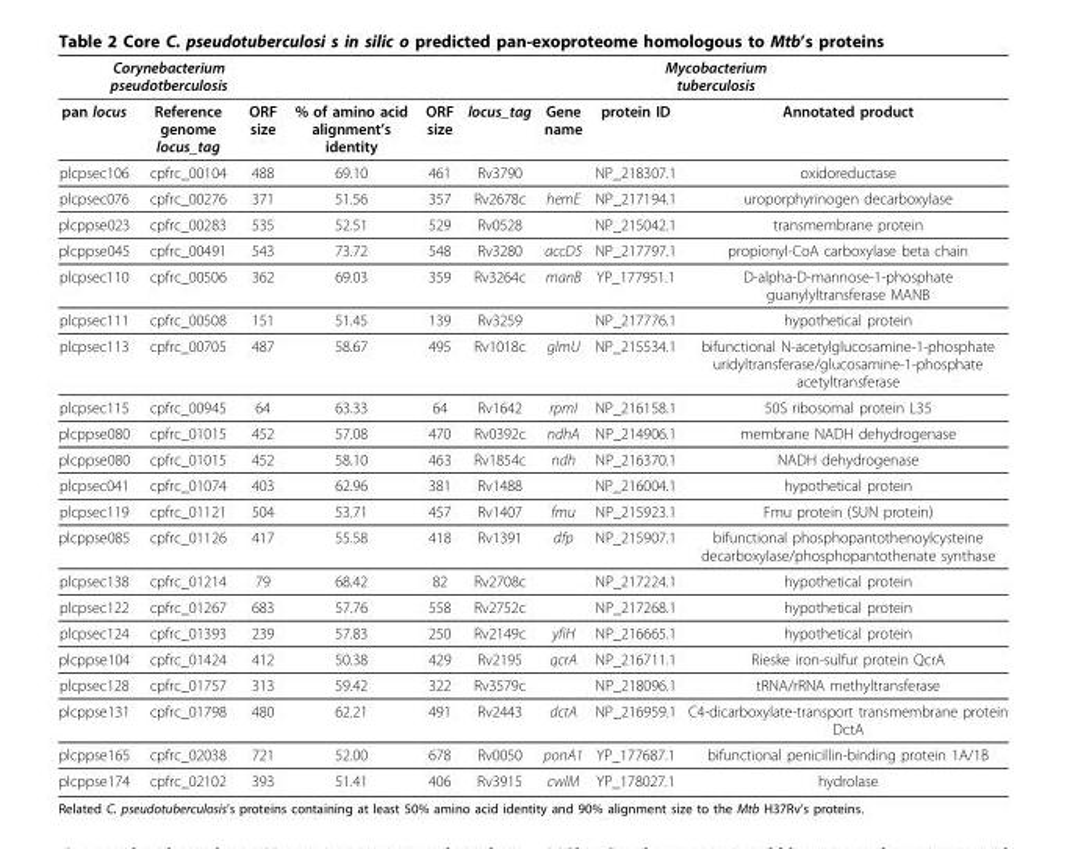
<table><thead><tr><td colspan="3">Corynebacterium pseudotberculosis</td><td rowspan="2">% of amino acid alignment’s identity</td><td colspan="5">Mycobacterium tuberculosis</td></tr><tr><td>pan locus</td><td>Reference genome locus_tag</td><td>ORF size</td><td>ORF size</td><td>locus_tag</td><td>Gene name</td><td>protein ID</td><td>Annotated product</td></tr></thead><tbody><tr><td>plcpsec106</td><td>cpfrc_00104</td><td>488</td><td>69.10</td><td>461</td><td>Rv3790</td><td></td><td>NP_218307.1</td><td>oxidoreductase</td></tr><tr><td>plcpsec076</td><td>cpfrc_00276</td><td>371</td><td>51.56</td><td>357</td><td>Rv2678c</td><td>hemE</td><td>NP_217194.1</td><td>uroporphyrinogen decarboxylase</td></tr><tr><td>plcppse023</td><td>cpfrc_00283</td><td>535</td><td>52.51</td><td>529</td><td>Rv0528</td><td></td><td>NP_215042.1</td><td>transmembrane protein</td></tr><tr><td>plcppse045</td><td>cpfrc_00491</td><td>543</td><td>73.72</td><td>548</td><td>Rv3280</td><td>accD5</td><td>NP_217797.1</td><td>propionyl-CoA carboxylase beta chain</td></tr><tr><td>plcpsec110</td><td>cpfrc_00506</td><td>362</td><td>69.03</td><td>359</td><td>Rv3264c</td><td>manB</td><td>YP_177951.1</td><td>D-alpha-D-mannose-1-phosphate guanylyltransferase MANB</td></tr><tr><td>plcpsec111</td><td>cpfrc_00508</td><td>151</td><td>51.45</td><td>139</td><td>Rv3259</td><td></td><td>NP_217776.1</td><td>hypothetical protein</td></tr><tr><td>plcpsec113</td><td>cpfrc_00705</td><td>487</td><td>58.67</td><td>495</td><td>Rv1018c</td><td>glmU</td><td>NP_215534.1</td><td>bifunctional N-acetylglucosamine-1-phosphate uridyltransferase/glucosamine-1-phosphate acetyltransferase</td></tr><tr><td>plcpsec115</td><td>cpfrc_00945</td><td>64</td><td>63.33</td><td>64</td><td>Rv1642</td><td>rpmI</td><td>NP_216158.1</td><td>50S ribosomal protein L35</td></tr><tr><td>plcppse080</td><td>cpfrc_01015</td><td>452</td><td>57.08</td><td>470</td><td>Rv0392c</td><td>ndhA</td><td>NP_214906.1</td><td>membrane NADH dehydrogenase</td></tr><tr><td>plcppse080</td><td>cpfrc_01015</td><td>452</td><td>58.10</td><td>463</td><td>Rv1854c</td><td>ndh</td><td>NP_216370.1</td><td>NADH dehydrogenase</td></tr><tr><td>plcpsec041</td><td>cpfrc_01074</td><td>403</td><td>62.96</td><td>381</td><td>Rv1488</td><td></td><td>NP_216004.1</td><td>hypothetical protein</td></tr><tr><td>plcpsec119</td><td>cpfrc_01121</td><td>504</td><td>53.71</td><td>457</td><td>Rv1407</td><td>fmu</td><td>NP_215923.1</td><td>Fmu protein (SUN protein)</td></tr><tr><td>plcppse085</td><td>cpfrc_01126</td><td>417</td><td>55.58</td><td>418</td><td>Rv1391</td><td>dfp</td><td>NP_215907.1</td><td>bifunctional phosphopantothenoylcysteine decarboxylase/phosphopantothenate synthase</td></tr><tr><td>plcpsec138</td><td>cpfrc_01214</td><td>79</td><td>68.42</td><td>82</td><td>Rv2708c</td><td></td><td>NP_217224.1</td><td>hypothetical protein</td></tr><tr><td>plcpsec122</td><td>cpfrc_01267</td><td>683</td><td>57.76</td><td>558</td><td>Rv2752c</td><td></td><td>NP_217268.1</td><td>hypothetical protein</td></tr><tr><td>plcpsec124</td><td>cpfrc_01393</td><td>239</td><td>57.83</td><td>250</td><td>Rv2149c</td><td>yfiH</td><td>NP_216665.1</td><td>hypothetical protein</td></tr><tr><td>plcppse104</td><td>cpfrc_01424</td><td>412</td><td>50.38</td><td>429</td><td>Rv2195</td><td>qcrA</td><td>NP_216711.1</td><td>Rieske iron-sulfur protein QcrA</td></tr><tr><td>plcpsec128</td><td>cpfrc_01757</td><td>313</td><td>59.42</td><td>322</td><td>Rv3579c</td><td></td><td>NP_218096.1</td><td>tRNA/rRNA methyltransferase</td></tr><tr><td>plcppse131</td><td>cpfrc_01798</td><td>480</td><td>62.21</td><td>491</td><td>Rv2443</td><td>dctA</td><td>NP_216959.1</td><td>C4-dicarboxylate-transport transmembrane protein DctA</td></tr><tr><td>plcppse165</td><td>cpfrc_02038</td><td>721</td><td>52.00</td><td>678</td><td>Rv0050</td><td>ponA1</td><td>YP_177687.1</td><td>bifunctional penicillin-binding protein 1A/1B</td></tr><tr><td>plcppse174</td><td>cpfrc_02102</td><td>393</td><td>51.41</td><td>406</td><td>Rv3915</td><td>cwlM</td><td>YP_178027.1</td><td>hydrolase</td></tr></tbody></table>